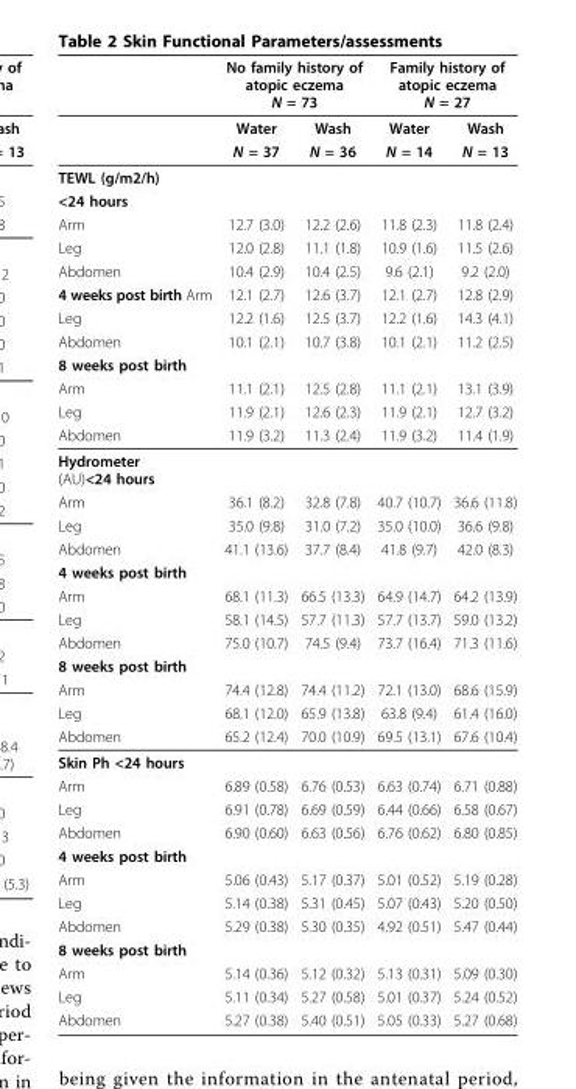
<table><thead><tr><td rowspan="2"></td><td colspan="2">No family history of atopic eczema N = 73</td><td colspan="2">Family history of atopic eczema N = 27</td></tr><tr><td>Water</td><td>Wash</td><td>Water</td><td>Wash</td></tr></thead><tbody><tr><td></td><td>N = 37</td><td>N = 36</td><td>N = 14</td><td>N = 13</td></tr><tr><td colspan="5">TEWL (g/m2/h)</td></tr><tr><td colspan="5">&lt;24 hours</td></tr><tr><td>Arm</td><td>12.7 (3.0)</td><td>12.2 (2.6)</td><td>11.8 (2.3)</td><td>11.8 (2.4)</td></tr><tr><td>Leg</td><td>12.0 (2.8)</td><td>11.1 (1.8)</td><td>10.9 (1.6)</td><td>11.5 (2.6)</td></tr><tr><td>Abdomen</td><td>10.4 (2.9)</td><td>10.4 (2.5)</td><td>9.6 (2.1)</td><td>9.2 (2.0)</td></tr><tr><td>4 weeks post birth Arm</td><td>12.1 (2.7)</td><td>12.6 (3.7)</td><td>12.1 (2.7)</td><td>12.8 (2.9)</td></tr><tr><td>Leg</td><td>12.2 (1.6)</td><td>12.5 (3.7)</td><td>12.2 (1.6)</td><td>14.3 (4.1)</td></tr><tr><td>Abdomen</td><td>10.1 (2.1)</td><td>10.7 (3.8)</td><td>10.1 (2.1)</td><td>11.2 (2.5)</td></tr><tr><td colspan="5">8 weeks post birth</td></tr><tr><td>Arm</td><td>11.1 (2.1)</td><td>12.5 (2.8)</td><td>11.1 (2.1)</td><td>13.1 (3.9)</td></tr><tr><td>Leg</td><td>11.9 (2.1)</td><td>12.6 (2.3)</td><td>11.9 (2.1)</td><td>12.7 (3.2)</td></tr><tr><td>Abdomen</td><td>11.9 (3.2)</td><td>11.3 (2.4)</td><td>11.9 (3.2)</td><td>11.4 (1.9)</td></tr><tr><td colspan="5">Hydrometer (AU)&lt;24 hours</td></tr><tr><td>Arm</td><td>36.1 (8.2)</td><td>32.8 (7.8)</td><td>40.7 (10.7)</td><td>36.6 (11.8)</td></tr><tr><td>Leg</td><td>35.0 (9.8)</td><td>31.0 (7.2)</td><td>35.0 (10.0)</td><td>36.6 (9.8)</td></tr><tr><td>Abdomen</td><td>41.1 (13.6)</td><td>37.7 (8.4)</td><td>41.8 (9.7)</td><td>42.0 (8.3)</td></tr><tr><td colspan="5">4 weeks post birth</td></tr><tr><td>Arm</td><td>68.1 (11.3)</td><td>66.5 (13.3)</td><td>64.9 (14.7)</td><td>64.2 (13.9)</td></tr><tr><td>Leg</td><td>58.1 (14.5)</td><td>57.7 (11.3)</td><td>57.7 (13.7)</td><td>59.0 (13.2)</td></tr><tr><td>Abdomen</td><td>75.0 (10.7)</td><td>74.5 (9.4)</td><td>73.7 (16.4)</td><td>71.3 (11.6)</td></tr><tr><td colspan="5">8 weeks post birth</td></tr><tr><td>Arm</td><td>74.4 (12.8)</td><td>74.4 (11.2)</td><td>72.1 (13.0)</td><td>68.6 (15.9)</td></tr><tr><td>Leg</td><td>68.1 (12.0)</td><td>65.9 (13.8)</td><td>63.8 (9.4)</td><td>61.4 (16.0)</td></tr><tr><td>Abdomen</td><td>65.2 (12.4)</td><td>70.0 (10.9)</td><td>69.5 (13.1)</td><td>67.6 (10.4)</td></tr><tr><td colspan="5">Skin Ph &lt;24 hours</td></tr><tr><td>Arm</td><td>6.89 (0.58)</td><td>6.76 (0.53)</td><td>6.63 (0.74)</td><td>6.71 (0.88)</td></tr><tr><td>Leg</td><td>6.91 (0.78)</td><td>6.69 (0.59)</td><td>6.44 (0.66)</td><td>6.58 (0.67)</td></tr><tr><td>Abdomen</td><td>6.90 (0.60)</td><td>6.63 (0.56)</td><td>6.76 (0.62)</td><td>6.80 (0.85)</td></tr><tr><td colspan="5">4 weeks post birth</td></tr><tr><td>Arm</td><td>5.06 (0.43)</td><td>5.17 (0.37)</td><td>5.01 (0.52)</td><td>5.19 (0.28)</td></tr><tr><td>Leg</td><td>5.14 (0.38)</td><td>5.31 (0.45)</td><td>5.07 (0.43)</td><td>5.20 (0.50)</td></tr><tr><td>Abdomen</td><td>5.29 (0.38)</td><td>5.30 (0.35)</td><td>4.92 (0.51)</td><td>5.47 (0.44)</td></tr><tr><td colspan="5">8 weeks post birth</td></tr><tr><td>Arm</td><td>5.14 (0.36)</td><td>5.12 (0.32)</td><td>5.13 (0.31)</td><td>5.09 (0.30)</td></tr><tr><td>Leg</td><td>5.11 (0.34)</td><td>5.27 (0.58)</td><td>5.01 (0.37)</td><td>5.24 (0.52)</td></tr><tr><td>Abdomen</td><td>5.27 (0.38)</td><td>5.40 (0.51)</td><td>5.05 (0.33)</td><td>5.27 (0.68)</td></tr></tbody></table>